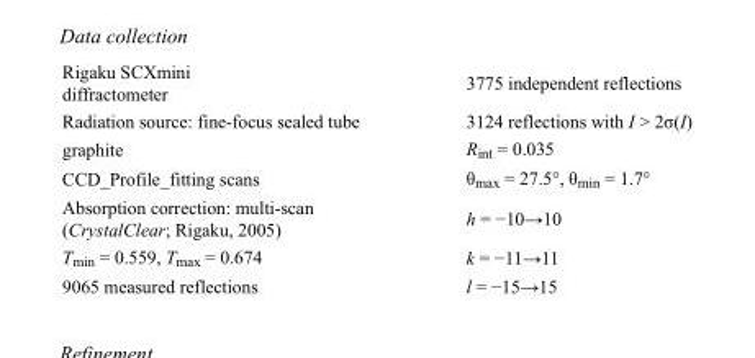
<table><tbody><tr><td>Rigaku SCXmini diffractometer</td><td>3775 independent reflections</td></tr><tr><td>Radiation source: fine-focus sealed tube</td><td>3124 reflections with I &gt; 2σ(I)</td></tr><tr><td>graphite</td><td>R<sub>int</sub> = 0.035</td></tr><tr><td>CCD_Profile_fitting scans</td><td>θ<sub>max</sub> = 27.5°, θ<sub>min</sub> = 1.7°</td></tr><tr><td>Absorption correction: multi-scan (CrystalClear; Rigaku, 2005)</td><td>h = −10→10</td></tr><tr><td>T<sub>min</sub> = 0.559, T<sub>max</sub> = 0.674</td><td>k = −11→11</td></tr><tr><td>9065 measured reflections</td><td>l = −15→15</td></tr></tbody></table>